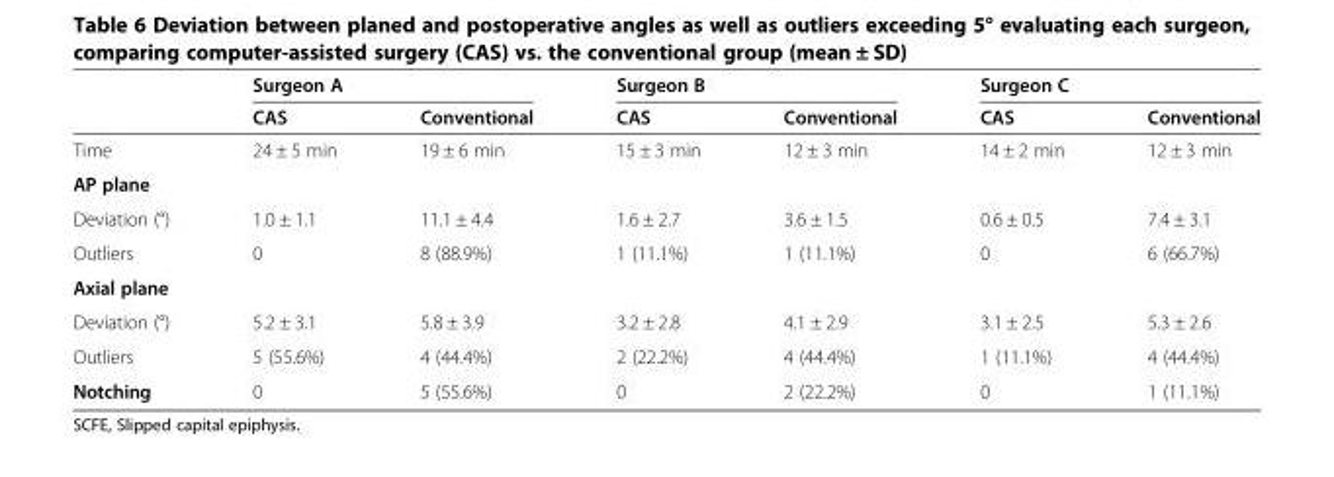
<table><thead><tr><td rowspan="2"></td><td colspan="2">Surgeon A</td><td colspan="2">Surgeon B</td><td colspan="2">Surgeon C</td></tr><tr><td>CAS</td><td>Conventional</td><td>CAS</td><td>Conventional</td><td>CAS</td><td>Conventional</td></tr></thead><tbody><tr><td>Time</td><td>24 ± 5 min</td><td>19 ± 6 min</td><td>15 ± 3 min</td><td>12 ± 3 min</td><td>14 ± 2 min</td><td>12 ± 3 min</td></tr><tr><td colspan="7">AP plane</td></tr><tr><td>Deviation (°)</td><td>1.0 ± 1.1</td><td>11.1 ± 4.4</td><td>1.6 ± 2.7</td><td>3.6 ± 1.5</td><td>0.6 ± 0.5</td><td>7.4 ± 3.1</td></tr><tr><td>Outliers</td><td>0</td><td>8 (88.9%)</td><td>1 (11.1%)</td><td>1 (11.1%)</td><td>0</td><td>6 (66.7%)</td></tr><tr><td colspan="7">Axial plane</td></tr><tr><td>Deviation (°)</td><td>5.2 ± 3.1</td><td>5.8 ± 3.9</td><td>3.2 ± 2.8</td><td>4.1 ± 2.9</td><td>3.1 ± 2.5</td><td>5.3 ± 2.6</td></tr><tr><td>Outliers</td><td>5 (55.6%)</td><td>4 (44.4%)</td><td>2 (22.2%)</td><td>4 (44.4%)</td><td>1 (11.1%)</td><td>4 (44.4%)</td></tr><tr><td>Notching</td><td>0</td><td>5 (55.6%)</td><td>0</td><td>2 (22.2%)</td><td>0</td><td>1 (11.1%)</td></tr></tbody></table>